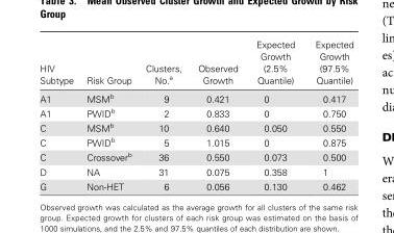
<table><thead><tr><td>HIV Subtype</td><td>Risk Group</td><td>Clusters, No.<sup>a</sup></td><td>Observed Growth</td><td>Expected Growth (2.5% Quantile)</td><td>Expected Growth (97.5% Quantile)</td></tr></thead><tbody><tr><td>A1</td><td>MSM<sup>b</sup></td><td>9</td><td>0.421</td><td>0</td><td>0.417</td></tr><tr><td>A1</td><td>PWID<sup>b</sup></td><td>2</td><td>0.833</td><td>0</td><td>0.750</td></tr><tr><td>C</td><td>MSM<sup>b</sup></td><td>10</td><td>0.640</td><td>0.050</td><td>0.550</td></tr><tr><td>C</td><td>PWID<sup>b</sup></td><td>5</td><td>1.015</td><td>0</td><td>0.875</td></tr><tr><td>C</td><td>Crossover<sup>b</sup></td><td>36</td><td>0.550</td><td>0.073</td><td>0.500</td></tr><tr><td>D</td><td>NA</td><td>31</td><td>0.075</td><td>0.358</td><td>1</td></tr><tr><td>G</td><td>Non-HET</td><td>6</td><td>0.056</td><td>0.130</td><td>0.462</td></tr></tbody></table>